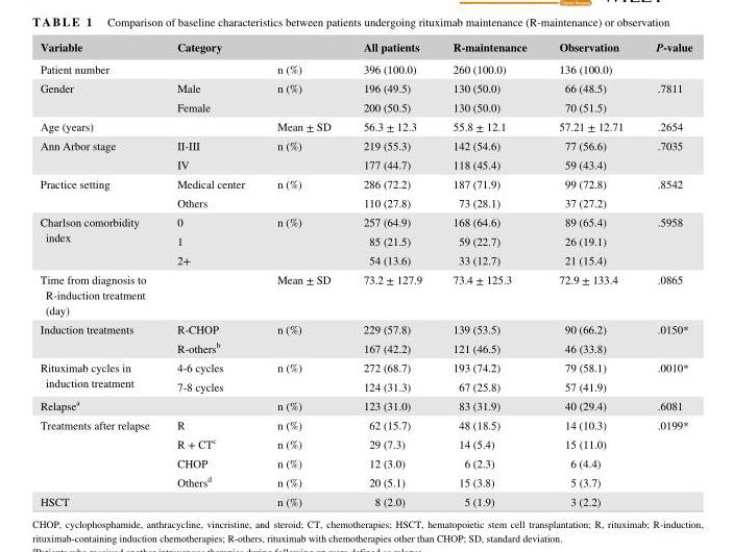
<table><thead><tr><td rowspan="2">Variable Patient number</td><td colspan="2">Category</td><td rowspan="2">All patients 396 (100.0)</td><td rowspan="2">R- maintenance 260 (100.0)</td><td rowspan="2">Observation 136 (100.0)</td><td rowspan="2">P- value</td></tr><tr><td></td><td>n (%)</td></tr></thead><tbody><tr><td rowspan="2">Gender</td><td>Male</td><td>n (%)</td><td>196 (49.5)</td><td>130 (50.0)</td><td>66 (48.5)</td><td>.7811</td></tr><tr><td>Female</td><td></td><td>200 (50.5)</td><td>130 (50.0)</td><td>70 (51.5)</td><td></td></tr><tr><td>Age (years)</td><td></td><td>Mean ± SD</td><td>56.3 ± 12.3</td><td>55.8 ± 12.1</td><td>57.21 ± 12.71</td><td>.2654</td></tr><tr><td rowspan="2">Ann Arbor stage</td><td>II- III</td><td>n (%)</td><td>219 (55.3)</td><td>142 (54.6)</td><td>77 (56.6)</td><td>.7035</td></tr><tr><td>IV</td><td></td><td>177 (44.7)</td><td>118 (45.4)</td><td>59 (43.4)</td><td></td></tr><tr><td rowspan="2">Practice setting</td><td>Medical center</td><td>n (%)</td><td>286 (72.2)</td><td>187 (71.9)</td><td>99 (72.8)</td><td>.8542</td></tr><tr><td>Others</td><td></td><td>110 (27.8)</td><td>73 (28.1)</td><td>37 (27.2)</td><td></td></tr><tr><td rowspan="3">Charlson comorbidity index</td><td>0</td><td>n (%)</td><td>257 (64.9)</td><td>168 (64.6)</td><td>89 (65.4)</td><td>.5958</td></tr><tr><td>1</td><td></td><td>85 (21.5)</td><td>59 (22.7)</td><td>26 (19.1)</td><td></td></tr><tr><td>2+</td><td></td><td>54 (13.6)</td><td>33 (12.7)</td><td>21 (15.4)</td><td></td></tr><tr><td>Time from diagnosis to R- induction treatment (day)</td><td></td><td>Mean ± SD</td><td>73.2 ± 127.9</td><td>73.4 ± 125.3</td><td>72.9 ± 133.4</td><td>.0865</td></tr><tr><td rowspan="2">Induction treatments</td><td>R- CHOP</td><td>n (%)</td><td>229 (57.8)</td><td>139 (53.5)</td><td>90 (66.2)</td><td>.0150*</td></tr><tr><td>R- others<sup>b</sup></td><td></td><td>167 (42.2)</td><td>121 (46.5)</td><td>46 (33.8)</td><td></td></tr><tr><td rowspan="2">Rituximab cycles in induction treatment</td><td>4- 6 cycles</td><td>n (%)</td><td>272 (68.7)</td><td>193 (74.2)</td><td>79 (58.1)</td><td>.0010*</td></tr><tr><td>7- 8 cycles</td><td></td><td>124 (31.3)</td><td>67 (25.8)</td><td>57 (41.9)</td><td></td></tr><tr><td>Relapse<sup>a</sup></td><td></td><td>n (%)</td><td>123 (31.0)</td><td>83 (31.9)</td><td>40 (29.4)</td><td>.6081</td></tr><tr><td rowspan="4">Treatments after relapse</td><td>R</td><td>n (%)</td><td>62 (15.7)</td><td>48 (18.5)</td><td>14 (10.3)</td><td>.0199*</td></tr><tr><td>R + CT<sup>c</sup></td><td>n (%)</td><td>29 (7.3)</td><td>14 (5.4)</td><td>15 (11.0)</td><td></td></tr><tr><td>CHOP</td><td>n (%)</td><td>12 (3.0)</td><td>6 (2.3)</td><td>6 (4.4)</td><td></td></tr><tr><td>Others<sup>d</sup></td><td>n (%)</td><td>20 (5.1)</td><td>15 (3.8)</td><td>5 (3.7)</td><td></td></tr><tr><td>HSCT</td><td></td><td>n (%)</td><td>8 (2.0)</td><td>5 (1.9)</td><td>3 (2.2)</td><td></td></tr></tbody></table>